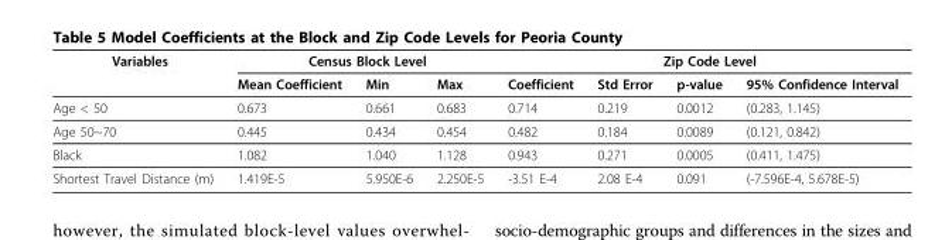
<table><thead><tr><td rowspan="2">Variables</td><td colspan="3">Census Block Level</td><td colspan="4">Zip Code Level</td></tr><tr><td>Mean Coefficient</td><td>Min</td><td>Max</td><td>Coefficient</td><td>Std Error</td><td>p-value</td><td>95% Confidence Interval</td></tr></thead><tbody><tr><td>Age &lt; 50</td><td>0.673</td><td>0.661</td><td>0.683</td><td>0.714</td><td>0.219</td><td>0.0012</td><td>(0.283, 1.145)</td></tr><tr><td>Age 50~70</td><td>0.445</td><td>0.434</td><td>0.454</td><td>0.482</td><td>0.184</td><td>0.0089</td><td>(0.121, 0.842)</td></tr><tr><td>Black</td><td>1.082</td><td>1.040</td><td>1.128</td><td>0.943</td><td>0.271</td><td>0.0005</td><td>(0.411, 1.475)</td></tr><tr><td>Shortest Travel Distance (m)</td><td>1.419E-5</td><td>5.950E-6</td><td>2.250E-5</td><td>-3.51 E-4</td><td>2.08 E-4</td><td>0.091</td><td>(-7.596E-4, 5.678E-5)</td></tr></tbody></table>